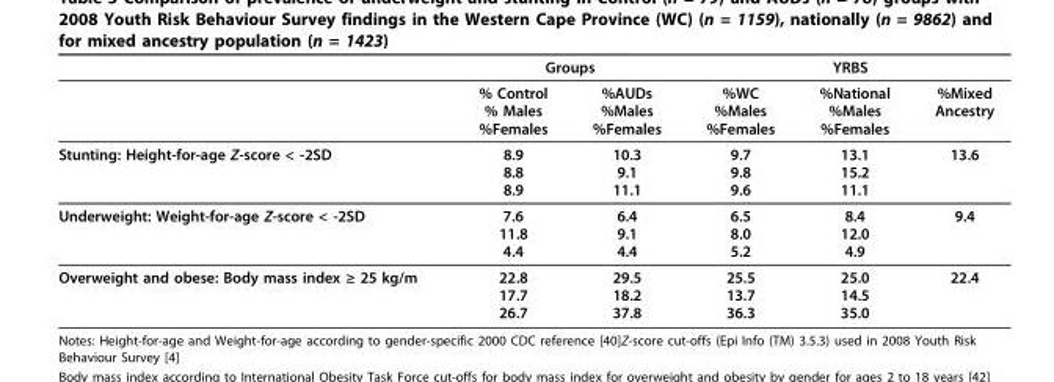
<table><thead><tr><td rowspan="2"></td><td colspan="2">Groups</td><td colspan="3">YRBS</td></tr><tr><td>% Control % Males %Females</td><td>%AUDs %Males %Females</td><td>%WC %Males %Females</td><td>%National %Males %Females</td><td>%Mixed Ancestry</td></tr></thead><tbody><tr><td>Stunting: Height-for-age Z-score &lt; -2SD</td><td>8.9 8.8 8.9</td><td>10.3 9.1 11.1</td><td>9.7 9.8 9.6</td><td>13.1 15.2 11.1</td><td>13.6</td></tr><tr><td>Underweight: Weight-for-age Z-score &lt; -2SD</td><td>7.6 11.8 4.4</td><td>6.4 9.1 4.4</td><td>6.5 8.0 5.2</td><td>8.4 12.0 4.9</td><td>9.4</td></tr><tr><td>Overweight and obese: Body mass index ≥ 25 kg/m</td><td>22.8 17.7 26.7</td><td>29.5 18.2 37.8</td><td>25.5 13.7 36.3</td><td>25.0 14.5 35.0</td><td>22.4</td></tr></tbody></table>